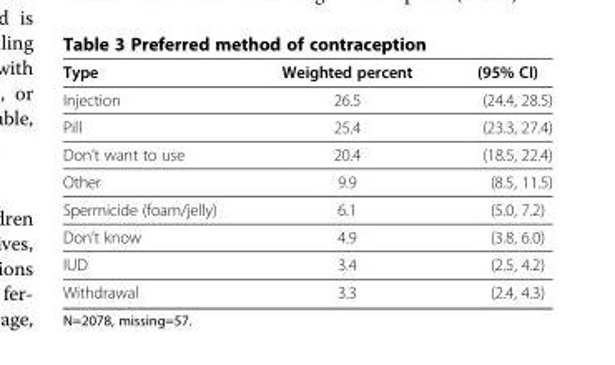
<table><thead><tr><td>Type</td><td>Weighted percent</td><td>(95% CI)</td></tr></thead><tbody><tr><td>Injection</td><td>26.5</td><td>(24.4, 28.5)</td></tr><tr><td>Pill</td><td>25.4</td><td>(23.3, 27.4)</td></tr><tr><td>Don’t want to use</td><td>20.4</td><td>(18.5, 22.4)</td></tr><tr><td>Other</td><td>9.9</td><td>(8.5, 11.5)</td></tr><tr><td>Spermicide (foam/jelly)</td><td>6.1</td><td>(5.0, 7.2)</td></tr><tr><td>Don’t know</td><td>4.9</td><td>(3.8, 6.0)</td></tr><tr><td>IUD</td><td>3.4</td><td>(2.5, 4.2)</td></tr><tr><td>Withdrawal</td><td>3.3</td><td>(2.4, 4.3)</td></tr></tbody></table>